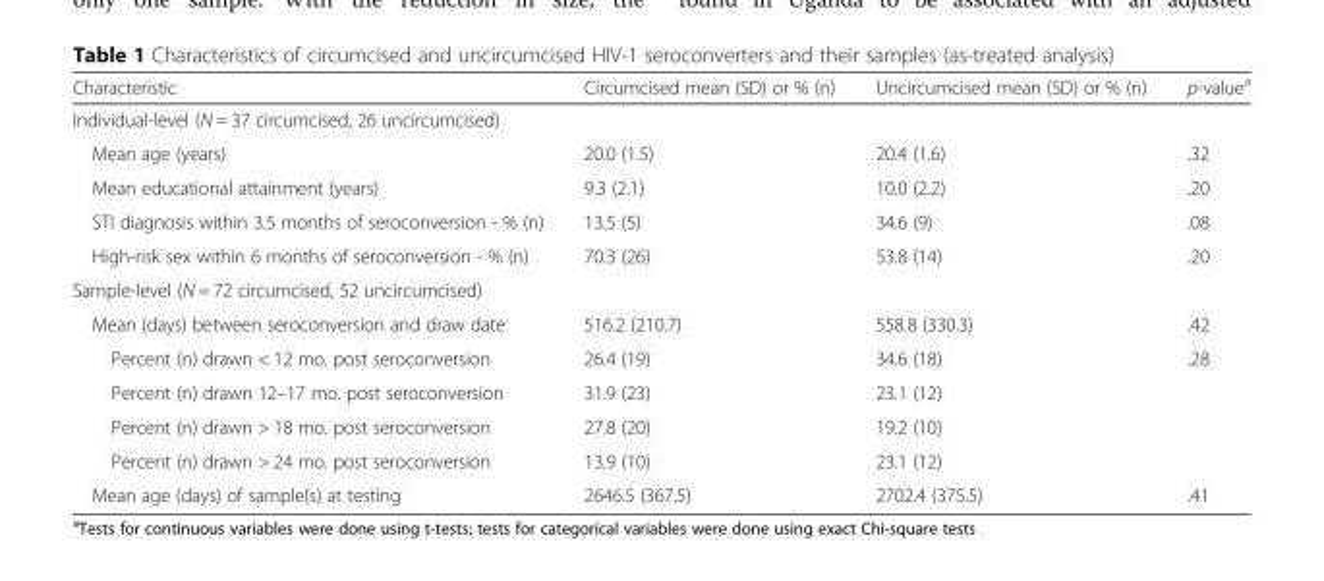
<table><thead><tr><td>Characteristic</td><td>Circumcised mean (SD) or % (n)</td><td>Uncircumcised mean (SD) or % (n)</td><td>p-value<sup>a</sup></td></tr></thead><tbody><tr><td colspan="4">Individual-level (N = 37 circumcised, 26 uncircumcised)</td></tr><tr><td>Mean age (years)</td><td>20.0 (1.5)</td><td>20.4 (1.6)</td><td>.32</td></tr><tr><td>Mean educational attainment (years)</td><td>9.3 (2.1)</td><td>10.0 (2.2)</td><td>.20</td></tr><tr><td>STI diagnosis within 3.5 months of seroconversion - % (n)</td><td>13.5 (5)</td><td>34.6 (9)</td><td>.08</td></tr><tr><td>High-risk sex within 6 months of seroconversion - % (n)</td><td>70.3 (26)</td><td>53.8 (14)</td><td>.20</td></tr><tr><td colspan="4">Sample-level (N = 72 circumcised, 52 uncircumcised)</td></tr><tr><td>Mean (days) between seroconversion and draw date</td><td>516.2 (210.7)</td><td>558.8 (330.3)</td><td>.42</td></tr><tr><td>Percent (n) drawn &lt; 12 mo. post seroconversion</td><td>26.4 (19)</td><td>34.6 (18)</td><td rowspan="4">.28</td></tr><tr><td>Percent (n) drawn 12–17 mo. post seroconversion</td><td>31.9 (23)</td><td>23.1 (12)</td></tr><tr><td>Percent (n) drawn &gt; 18 mo. post seroconversion</td><td>27.8 (20)</td><td>19.2 (10)</td></tr><tr><td>Percent (n) drawn &gt; 24 mo. post seroconversion</td><td>13.9 (10)</td><td>23.1 (12)</td></tr><tr><td>Mean age (days) of sample(s) at testing</td><td>2646.5 (367.5)</td><td>2702.4 (375.5)</td><td>.41</td></tr></tbody></table>